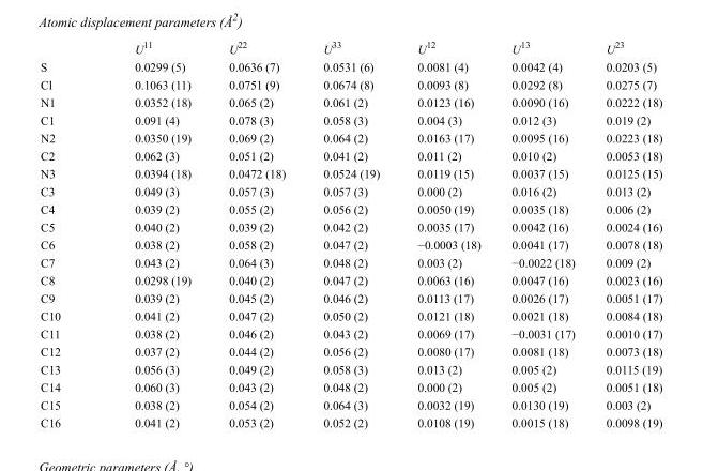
<table><thead><tr><td></td><td>U<sup>11</sup></td><td>U<sup>22</sup></td><td>U<sup>33</sup></td><td>U<sup>12</sup></td><td>U<sup>13</sup></td><td>U<sup>23</sup></td></tr></thead><tbody><tr><td>S</td><td>0.0299 (5)</td><td>0.0636 (7)</td><td>0.0531 (6)</td><td>0.0081 (4)</td><td>0.0042 (4)</td><td>0.0203 (5)</td></tr><tr><td>Cl</td><td>0.1063 (11)</td><td>0.0751 (9)</td><td>0.0674 (8)</td><td>0.0093 (8)</td><td>0.0292 (8)</td><td>0.0275 (7)</td></tr><tr><td>N1</td><td>0.0352 (18)</td><td>0.065 (2)</td><td>0.061 (2)</td><td>0.0123 (16)</td><td>0.0090 (16)</td><td>0.0222 (18)</td></tr><tr><td>C1</td><td>0.091 (4)</td><td>0.078 (3)</td><td>0.058 (3)</td><td>0.004 (3)</td><td>0.012 (3)</td><td>0.019 (2)</td></tr><tr><td>N2</td><td>0.0350 (19)</td><td>0.069 (2)</td><td>0.064 (2)</td><td>0.0163 (17)</td><td>0.0095 (16)</td><td>0.0223 (18)</td></tr><tr><td>C2</td><td>0.062 (3)</td><td>0.051 (2)</td><td>0.041 (2)</td><td>0.011 (2)</td><td>0.010 (2)</td><td>0.0053 (18)</td></tr><tr><td>N3</td><td>0.0394 (18)</td><td>0.0472 (18)</td><td>0.0524 (19)</td><td>0.0119 (15)</td><td>0.0037 (15)</td><td>0.0125 (15)</td></tr><tr><td>C3</td><td>0.049 (3)</td><td>0.057 (3)</td><td>0.057 (3)</td><td>0.000 (2)</td><td>0.016 (2)</td><td>0.013 (2)</td></tr><tr><td>C4</td><td>0.039 (2)</td><td>0.055 (2)</td><td>0.056 (2)</td><td>0.0050 (19)</td><td>0.0035 (18)</td><td>0.006 (2)</td></tr><tr><td>C5</td><td>0.040 (2)</td><td>0.039 (2)</td><td>0.042 (2)</td><td>0.0035 (17)</td><td>0.0042 (16)</td><td>0.0024 (16)</td></tr><tr><td>C6</td><td>0.038 (2)</td><td>0.058 (2)</td><td>0.047 (2)</td><td>−0.0003 (18)</td><td>0.0041 (17)</td><td>0.0078 (18)</td></tr><tr><td>C7</td><td>0.043 (2)</td><td>0.064 (3)</td><td>0.048 (2)</td><td>0.003 (2)</td><td>−0.0022 (18)</td><td>0.009 (2)</td></tr><tr><td>C8</td><td>0.0298 (19)</td><td>0.040 (2)</td><td>0.047 (2)</td><td>0.0063 (16)</td><td>0.0047 (16)</td><td>0.0023 (16)</td></tr><tr><td>C9</td><td>0.039 (2)</td><td>0.045 (2)</td><td>0.046 (2)</td><td>0.0113 (17)</td><td>0.0026 (17)</td><td>0.0051 (17)</td></tr><tr><td>C10</td><td>0.041 (2)</td><td>0.047 (2)</td><td>0.050 (2)</td><td>0.0121 (18)</td><td>0.0021 (18)</td><td>0.0084 (18)</td></tr><tr><td>C11</td><td>0.038 (2)</td><td>0.046 (2)</td><td>0.043 (2)</td><td>0.0069 (17)</td><td>−0.0031 (17)</td><td>0.0010 (17)</td></tr><tr><td>C12</td><td>0.037 (2)</td><td>0.044 (2)</td><td>0.056 (2)</td><td>0.0080 (17)</td><td>0.0081 (18)</td><td>0.0073 (18)</td></tr><tr><td>C13</td><td>0.056 (3)</td><td>0.049 (2)</td><td>0.058 (3)</td><td>0.013 (2)</td><td>0.005 (2)</td><td>0.0115 (19)</td></tr><tr><td>C14</td><td>0.060 (3)</td><td>0.043 (2)</td><td>0.048 (2)</td><td>0.000 (2)</td><td>0.005 (2)</td><td>0.0051 (18)</td></tr><tr><td>C15</td><td>0.038 (2)</td><td>0.054 (2)</td><td>0.064 (3)</td><td>0.0032 (19)</td><td>0.0130 (19)</td><td>0.003 (2)</td></tr><tr><td>C16</td><td>0.041 (2)</td><td>0.053 (2)</td><td>0.052 (2)</td><td>0.0108 (19)</td><td>0.0015 (18)</td><td>0.0098 (19)</td></tr></tbody></table>